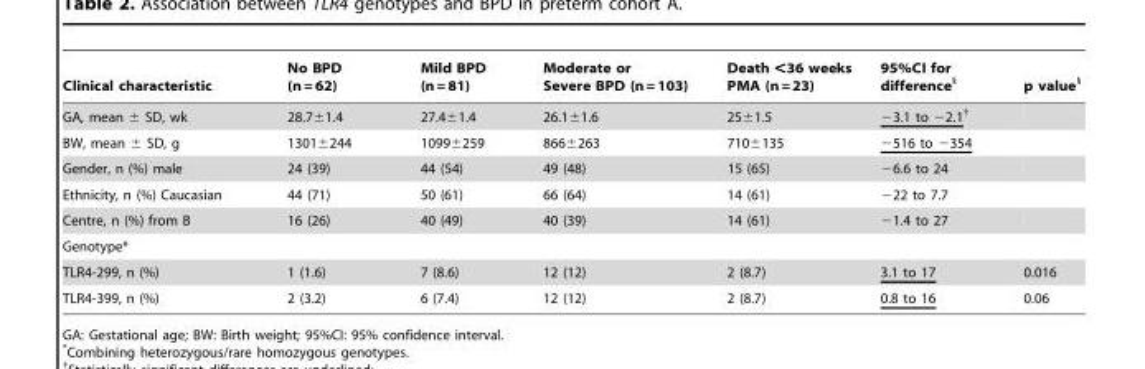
<table><thead><tr><td>Clinical characteristic</td><td>No BPD (n = 62)</td><td>Mild BPD (n = 81)</td><td>Moderate or Severe BPD (n = 103)</td><td>Death &lt;36 weeks PMA (n = 23)</td><td>95%CI for difference§</td><td>p value§</td></tr></thead><tbody><tr><td>GA, mean ± SD, wk</td><td>28.7±1.4</td><td>27.4±1.4</td><td>26.1±1.6</td><td>25±1.5</td><td>−3.1 to −2.1†</td><td></td></tr><tr><td>BW, mean ± SD, g</td><td>1301±244</td><td>1099±259</td><td>866±263</td><td>710±135</td><td>−516 to −354</td><td></td></tr><tr><td>Gender, n (%) male</td><td>24 (39)</td><td>44 (54)</td><td>49 (48)</td><td>15 (65)</td><td>−6.6 to 24</td><td></td></tr><tr><td>Ethnicity, n (%) Caucasian</td><td>44 (71)</td><td>50 (61)</td><td>66 (64)</td><td>14 (61)</td><td>−22 to 7.7</td><td></td></tr><tr><td>Centre, n (%) from B</td><td>16 (26)</td><td>40 (49)</td><td>40 (39)</td><td>14 (61)</td><td>−1.4 to 27</td><td></td></tr><tr><td colspan="7">Genotype*</td></tr><tr><td>TLR4-299, n (%)</td><td>1 (1.6)</td><td>7 (8.6)</td><td>12 (12)</td><td>2 (8.7)</td><td>3.1 to 17</td><td>0.016</td></tr><tr><td>TLR4-399, n (%)</td><td>2 (3.2)</td><td>6 (7.4)</td><td>12 (12)</td><td>2 (8.7)</td><td>0.8 to 16</td><td>0.06</td></tr></tbody></table>